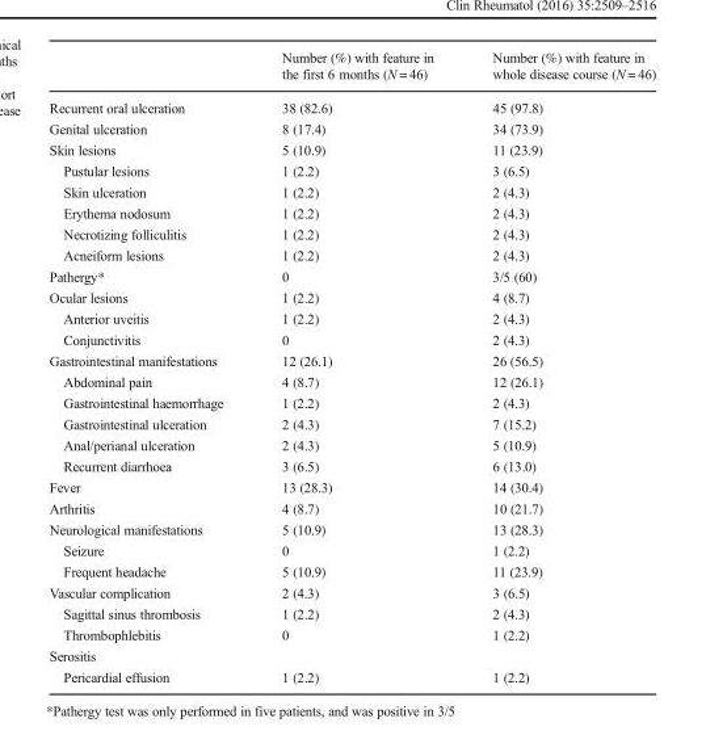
<table><thead><tr><td></td><td>Number (%) with feature in the first 6 months (N = 46)</td><td>Number (%) with feature in whole disease course (N = 46)</td></tr></thead><tbody><tr><td>Recurrent oral ulceration</td><td>38 (82.6)</td><td>45 (97.8)</td></tr><tr><td>Genital ulceration</td><td>8 (17.4)</td><td>34 (73.9)</td></tr><tr><td>Skin lesions</td><td>5 (10.9)</td><td>11 (23.9)</td></tr><tr><td>Pustular lesions</td><td>1 (2.2)</td><td>3 (6.5)</td></tr><tr><td>Skin ulceration</td><td>1 (2.2)</td><td>2 (4.3)</td></tr><tr><td>Erythema nodosum</td><td>1 (2.2)</td><td>2 (4.3)</td></tr><tr><td>Necrotizing folliculitis</td><td>1 (2.2)</td><td>2 (4.3)</td></tr><tr><td>Acneiform lesions</td><td>1 (2.2)</td><td>2 (4.3)</td></tr><tr><td>Pathergy*</td><td>0</td><td>3/5 (60)</td></tr><tr><td>Ocular lesions</td><td>1 (2.2)</td><td>4 (8.7)</td></tr><tr><td>Anterior uveitis</td><td>1 (2.2)</td><td>2 (4.3)</td></tr><tr><td>Conjunctivitis</td><td>0</td><td>2 (4.3)</td></tr><tr><td>Gastrointestinal manifestations</td><td>12 (26.1)</td><td>26 (56.5)</td></tr><tr><td>Abdominal pain</td><td>4 (8.7)</td><td>12 (26.1)</td></tr><tr><td>Gastrointestinal haemorrhage</td><td>1 (2.2)</td><td>2 (4.3)</td></tr><tr><td>Gastrointestinal ulceration</td><td>2 (4.3)</td><td>7 (15.2)</td></tr><tr><td>Anal/perianal ulceration</td><td>2 (4.3)</td><td>5 (10.9)</td></tr><tr><td>Recurrent diarrhoea</td><td>3 (6.5)</td><td>6 (13.0)</td></tr><tr><td>Fever</td><td>13 (28.3)</td><td>14 (30.4)</td></tr><tr><td>Arthritis</td><td>4 (8.7)</td><td>10 (21.7)</td></tr><tr><td>Neurological manifestations</td><td>5 (10.9)</td><td>13 (28.3)</td></tr><tr><td>Seizure</td><td>0</td><td>1 (2.2)</td></tr><tr><td>Frequent headache</td><td>5 (10.9)</td><td>11 (23.9)</td></tr><tr><td>Vascular complication</td><td>2 (4.3)</td><td>3 (6.5)</td></tr><tr><td>Sagittal sinus thrombosis</td><td>1 (2.2)</td><td>2 (4.3)</td></tr><tr><td>Thrombophlebitis</td><td>0</td><td>1 (2.2)</td></tr><tr><td colspan="3">Serositis</td></tr><tr><td>Pericardial effusion</td><td>1 (2.2)</td><td>1 (2.2)</td></tr></tbody></table>